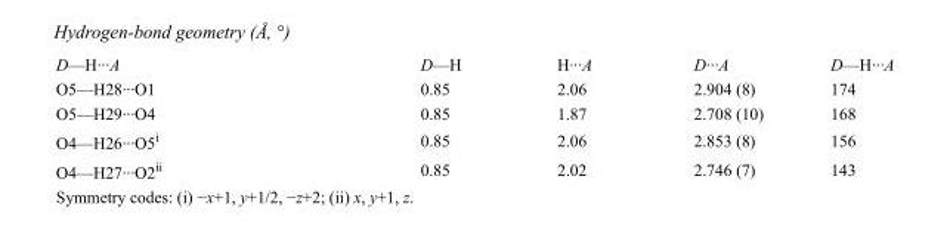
<table><tbody><tr><td>D—H···A</td><td>D—H</td><td>H···A</td><td>D···A</td><td>D—H···A</td></tr><tr><td>O5—H28···O1</td><td>0.85</td><td>2.06</td><td>2.904 (8)</td><td>174</td></tr><tr><td>O5—H29···O4</td><td>0.85</td><td>1.87</td><td>2.708 (10)</td><td>168</td></tr><tr><td>O4—H26···O5<sup>i</sup></td><td>0.85</td><td>2.06</td><td>2.853 (8)</td><td>156</td></tr><tr><td>O4—H27···O2<sup>ii</sup></td><td>0.85</td><td>2.02</td><td>2.746 (7)</td><td>143</td></tr></tbody></table>